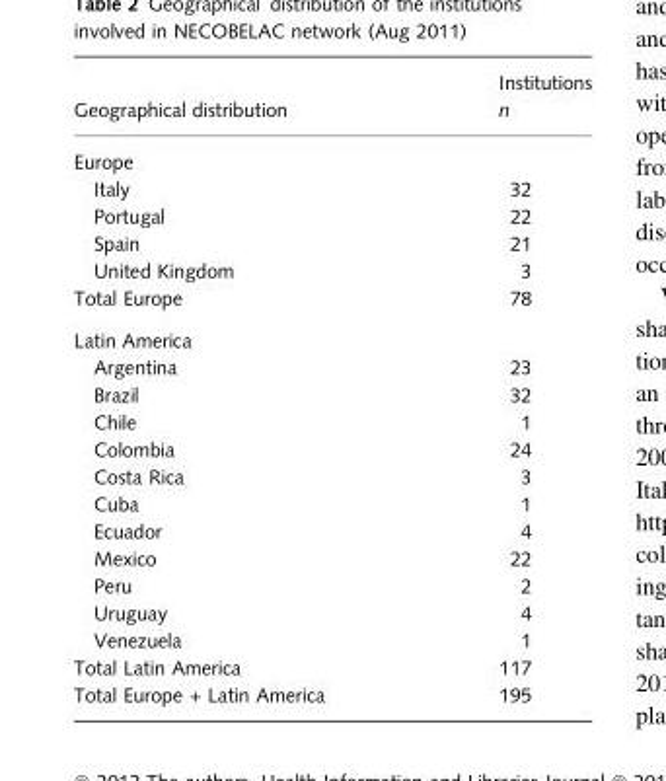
<table><thead><tr><td>Geographical distribution</td><td>Institutions n</td></tr></thead><tbody><tr><td colspan="2">Europe</td></tr><tr><td>Italy</td><td>32</td></tr><tr><td>Portugal</td><td>22</td></tr><tr><td>Spain</td><td>21</td></tr><tr><td>United Kingdom</td><td>3</td></tr><tr><td>Total Europe</td><td>78</td></tr><tr><td colspan="2">Latin America</td></tr><tr><td>Argentina</td><td>23</td></tr><tr><td>Brazil</td><td>32</td></tr><tr><td>Chile</td><td>1</td></tr><tr><td>Colombia</td><td>24</td></tr><tr><td>Costa Rica</td><td>3</td></tr><tr><td>Cuba</td><td>1</td></tr><tr><td>Ecuador</td><td>4</td></tr><tr><td>Mexico</td><td>22</td></tr><tr><td>Peru</td><td>2</td></tr><tr><td>Uruguay</td><td>4</td></tr><tr><td>Venezuela</td><td>1</td></tr><tr><td>Total Latin America</td><td>117</td></tr><tr><td>Total Europe + Latin America</td><td>195</td></tr></tbody></table>